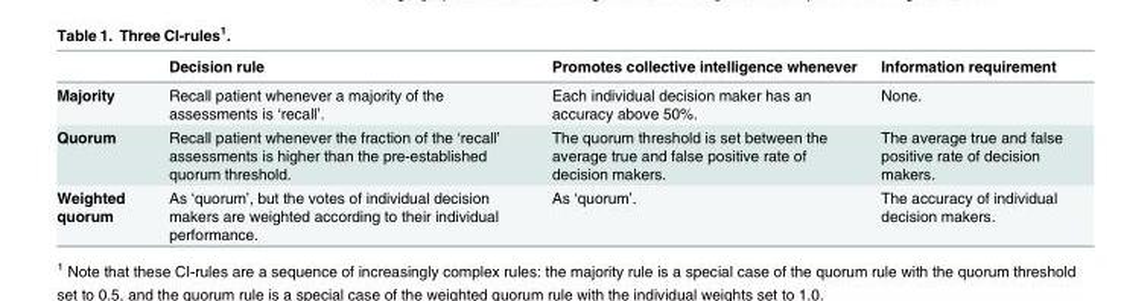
<table><thead><tr><td></td><td>Decision rule</td><td>Promotes collective intelligence whenever</td><td>Information requirement</td></tr></thead><tbody><tr><td>Majority</td><td>Recall patient whenever a majority of the assessments is ‘recall’.</td><td>Each individual decision maker has an accuracy above 50%.</td><td>None.</td></tr><tr><td>Quorum</td><td>Recall patient whenever the fraction of the ‘recall’ assessments is higher than the pre-established quorum threshold.</td><td>The quorum threshold is set between the average true and false positive rate of decision makers.</td><td>The average true and false positive rate of decision makers.</td></tr><tr><td>Weighted quorum</td><td>As ‘quorum’, but the votes of individual decision makers are weighted according to their individual performance.</td><td>As ‘quorum’.</td><td>The accuracy of individual decision makers.</td></tr></tbody></table>